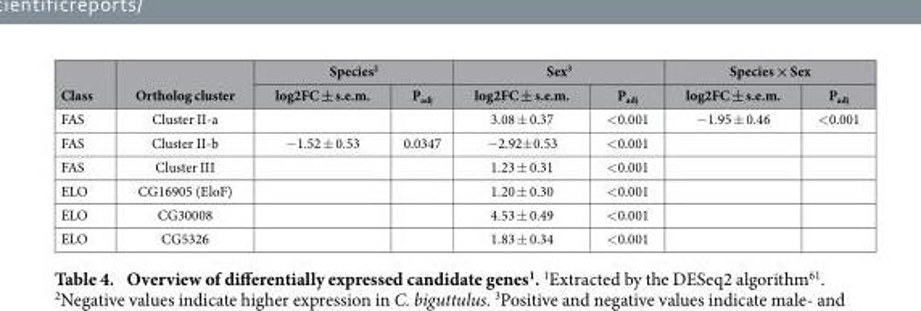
<table><thead><tr><td rowspan="2">Class</td><td rowspan="2">Ortholog cluster</td><td colspan="2">Species<sup>2</sup></td><td colspan="2">Sex<sup>3</sup></td><td colspan="2">Species × Sex</td></tr><tr><td>log2FC ± s.e.m.</td><td>P<sub>adj</sub></td><td>log2FC ± s.e.m.</td><td>P<sub>adj</sub></td><td>log2FC ± s.e.m.</td><td>P<sub>adj</sub></td></tr></thead><tbody><tr><td>FAS</td><td>Cluster II-a</td><td></td><td></td><td>3.08 ± 0.37</td><td>&lt; 0.001</td><td>− 1.95 ± 0.46</td><td>&lt; 0.001</td></tr><tr><td>FAS</td><td>Cluster II-b</td><td>− 1.52 ± 0.53</td><td>0.0347</td><td>− 2.92± 0.53</td><td>&lt; 0.001</td><td></td><td></td></tr><tr><td>FAS</td><td>Cluster III</td><td></td><td></td><td>1.23 ± 0.31</td><td>&lt; 0.001</td><td></td><td></td></tr><tr><td>ELO</td><td>CG16905 (EloF)</td><td></td><td></td><td>1.20 ± 0.30</td><td>&lt; 0.001</td><td></td><td></td></tr><tr><td>ELO</td><td>CG30008</td><td></td><td></td><td>4.53 ± 0.49</td><td>&lt; 0.001</td><td></td><td></td></tr><tr><td>ELO</td><td>CG5326</td><td></td><td></td><td>1.83 ± 0.34</td><td>&lt; 0.001</td><td></td><td></td></tr></tbody></table>